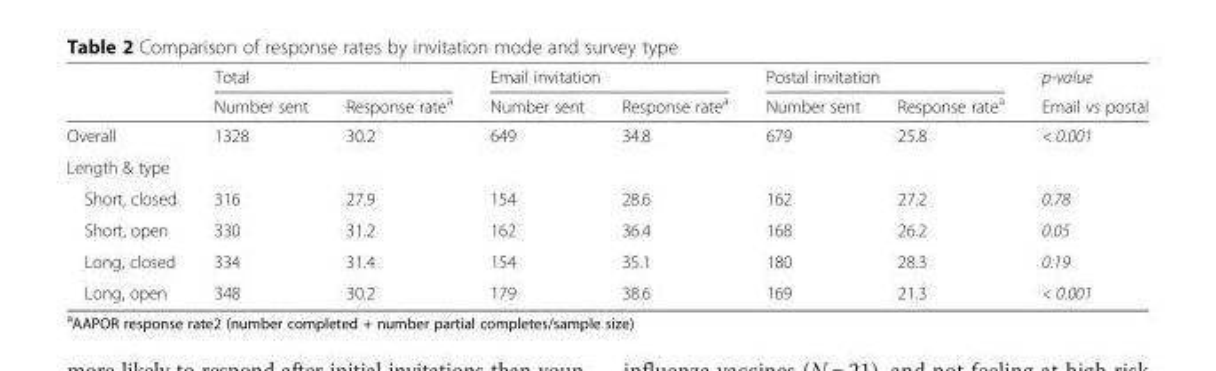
<table><thead><tr><td rowspan="2"></td><td colspan="2">Total</td><td colspan="2">Email invitation</td><td colspan="2">Postal invitation</td><td rowspan="2">p-value Email vs postal</td></tr><tr><td>Number sent</td><td>Response rate<sup>a</sup></td><td>Number sent</td><td>Response rate<sup>a</sup></td><td>Number sent</td><td>Response rate<sup>a</sup></td></tr></thead><tbody><tr><td>Overall</td><td>1328</td><td>30.2</td><td>649</td><td>34.8</td><td>679</td><td>25.8</td><td>&lt; 0.001</td></tr><tr><td colspan="8">Length &amp; type</td></tr><tr><td>Short, closed</td><td>316</td><td>27.9</td><td>154</td><td>28.6</td><td>162</td><td>27.2</td><td>0.78</td></tr><tr><td>Short, open</td><td>330</td><td>31.2</td><td>162</td><td>36.4</td><td>168</td><td>26.2</td><td>0.05</td></tr><tr><td>Long, closed</td><td>334</td><td>31.4</td><td>154</td><td>35.1</td><td>180</td><td>28.3</td><td>0.19</td></tr><tr><td>Long, open</td><td>348</td><td>30.2</td><td>179</td><td>38.6</td><td>169</td><td>21.3</td><td>&lt; 0.001</td></tr></tbody></table>